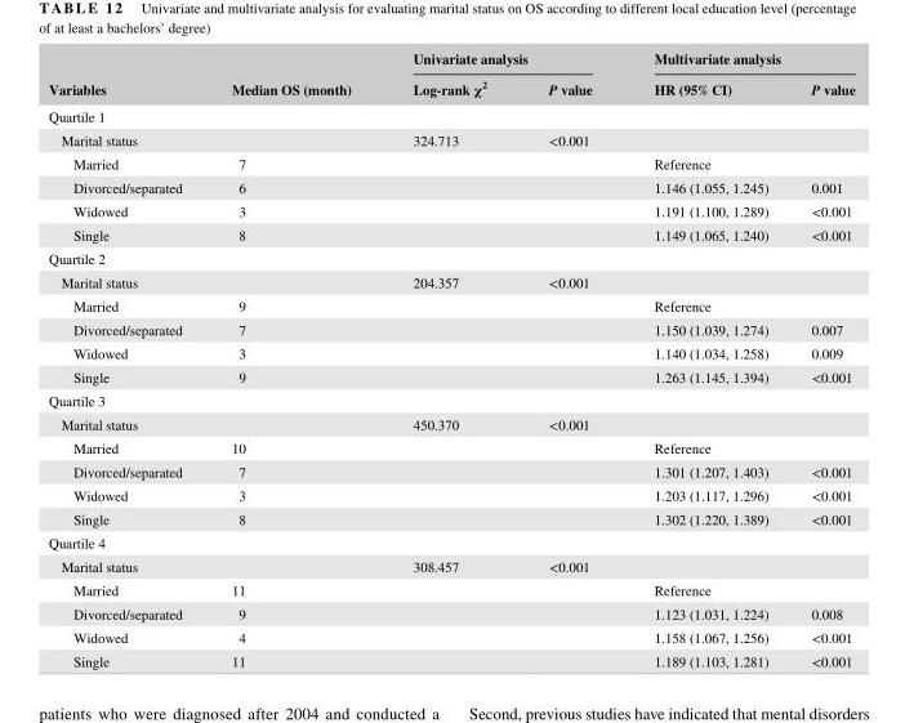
<table><thead><tr><td rowspan="2">Variables</td><td rowspan="2">Median OS (month)</td><td colspan="2">Univariate analysis</td><td colspan="2">Multivariate analysis</td></tr><tr><td>Log- rank χ<sup>2</sup></td><td>P value</td><td>HR (95% CI)</td><td>P value</td></tr></thead><tbody><tr><td colspan="6">Quartile 1</td></tr><tr><td>Marital status</td><td></td><td>324.713</td><td>&lt;0.001</td><td></td><td></td></tr><tr><td>Married</td><td>7</td><td></td><td></td><td>Reference</td><td></td></tr><tr><td>Divorced/separated</td><td>6</td><td></td><td></td><td>1.146 (1.055, 1.245)</td><td>0.001</td></tr><tr><td>Widowed</td><td>3</td><td></td><td></td><td>1.191 (1.100, 1.289)</td><td>&lt;0.001</td></tr><tr><td>Single</td><td>8</td><td></td><td></td><td>1.149 (1.065, 1.240)</td><td>&lt;0.001</td></tr><tr><td colspan="6">Quartile 2</td></tr><tr><td>Marital status</td><td></td><td>204.357</td><td>&lt;0.001</td><td></td><td></td></tr><tr><td>Married</td><td>9</td><td></td><td></td><td>Reference</td><td></td></tr><tr><td>Divorced/separated</td><td>7</td><td></td><td></td><td>1.150 (1.039, 1.274)</td><td>0.007</td></tr><tr><td>Widowed</td><td>3</td><td></td><td></td><td>1.140 (1.034, 1.258)</td><td>0.009</td></tr><tr><td>Single</td><td>9</td><td></td><td></td><td>1.263 (1.145, 1.394)</td><td>&lt;0.001</td></tr><tr><td colspan="6">Quartile 3</td></tr><tr><td>Marital status</td><td></td><td>450.370</td><td>&lt;0.001</td><td></td><td></td></tr><tr><td>Married</td><td>10</td><td></td><td></td><td>Reference</td><td></td></tr><tr><td>Divorced/separated</td><td>7</td><td></td><td></td><td>1.301 (1.207, 1.403)</td><td>&lt;0.001</td></tr><tr><td>Widowed</td><td>3</td><td></td><td></td><td>1.203 (1.117, 1.296)</td><td>&lt;0.001</td></tr><tr><td>Single</td><td>8</td><td></td><td></td><td>1.302 (1.220, 1.389)</td><td>&lt;0.001</td></tr><tr><td colspan="6">Quartile 4</td></tr><tr><td>Marital status</td><td></td><td>308.457</td><td>&lt;0.001</td><td></td><td></td></tr><tr><td>Married</td><td>11</td><td></td><td></td><td>Reference</td><td></td></tr><tr><td>Divorced/separated</td><td>9</td><td></td><td></td><td>1.123 (1.031, 1.224)</td><td>0.008</td></tr><tr><td>Widowed</td><td>4</td><td></td><td></td><td>1.158 (1.067, 1.256)</td><td>&lt;0.001</td></tr><tr><td>Single</td><td>11</td><td></td><td></td><td>1.189 (1.103, 1.281)</td><td>&lt;0.001</td></tr></tbody></table>